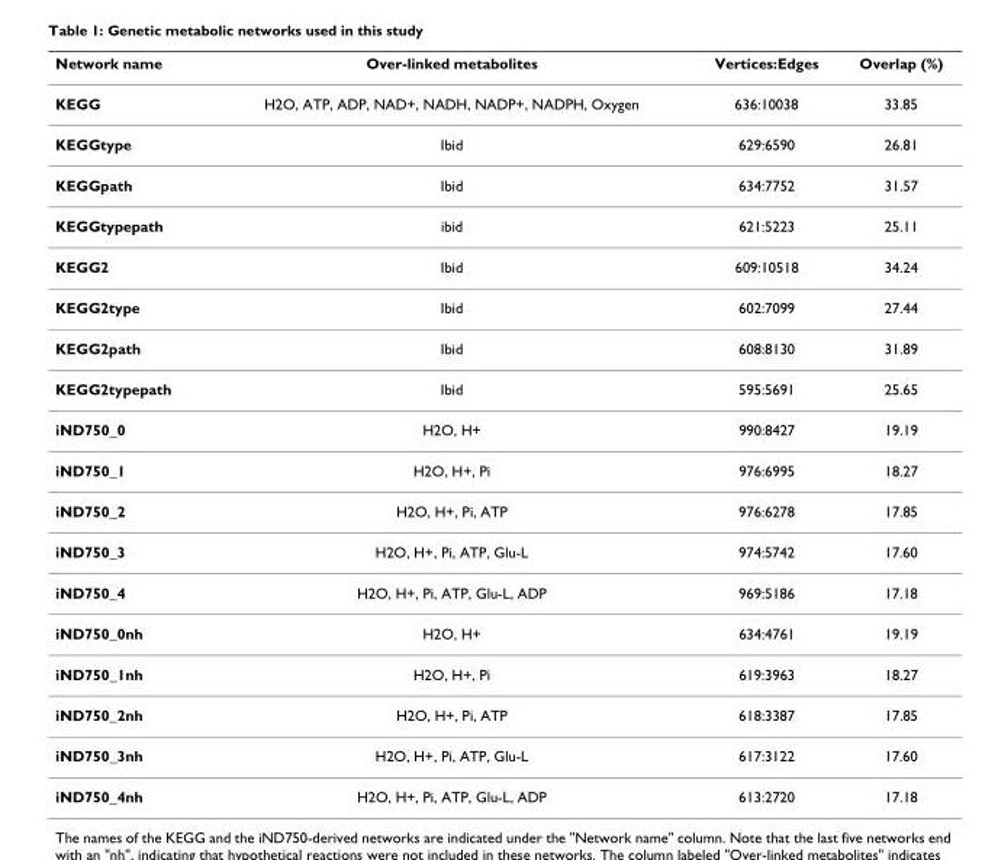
<table><thead><tr><td>Network name</td><td>Over-linked metabolites</td><td>Vertices:Edges</td><td>Overlap (%)</td></tr></thead><tbody><tr><td>KEGG</td><td>H2O, ATP, ADP, NAD+, NADH, NADP+, NADPH, Oxygen</td><td>636:10038</td><td>33.85</td></tr><tr><td>KEGGtype</td><td>Ibid</td><td>629:6590</td><td>26.81</td></tr><tr><td>KEGGpath</td><td>Ibid</td><td>634:7752</td><td>31.57</td></tr><tr><td>KEGGtypepath</td><td>ibid</td><td>621:5223</td><td>25.11</td></tr><tr><td>KEGG2</td><td>Ibid</td><td>609:10518</td><td>34.24</td></tr><tr><td>KEGG2type</td><td>Ibid</td><td>602:7099</td><td>27.44</td></tr><tr><td>KEGG2path</td><td>Ibid</td><td>608:8130</td><td>31.89</td></tr><tr><td>KEGG2typepath</td><td>Ibid</td><td>595:5691</td><td>25.65</td></tr><tr><td>iND750_0</td><td>H2O, H+</td><td>990:8427</td><td>19.19</td></tr><tr><td>iND750_1</td><td>H2O, H+, Pi</td><td>976:6995</td><td>18.27</td></tr><tr><td>iND750_2</td><td>H2O, H+, Pi, ATP</td><td>976:6278</td><td>17.85</td></tr><tr><td>iND750_3</td><td>H2O, H+, Pi, ATP, Glu-L</td><td>974:5742</td><td>17.60</td></tr><tr><td>iND750_4</td><td>H2O, H+, Pi, ATP, Glu-L, ADP</td><td>969:5186</td><td>17.18</td></tr><tr><td>iND750_0nh</td><td>H2O, H+</td><td>634:4761</td><td>19.19</td></tr><tr><td>iND750_1nh</td><td>H2O, H+, Pi</td><td>619:3963</td><td>18.27</td></tr><tr><td>iND750_2nh</td><td>H2O, H+, Pi, ATP</td><td>618:3387</td><td>17.85</td></tr><tr><td>iND750_3nh</td><td>H2O, H+, Pi, ATP, Glu-L</td><td>617:3122</td><td>17.60</td></tr><tr><td>iND750_4nh</td><td>H2O, H+, Pi, ATP, Glu-L, ADP</td><td>613:2720</td><td>17.18</td></tr></tbody></table>